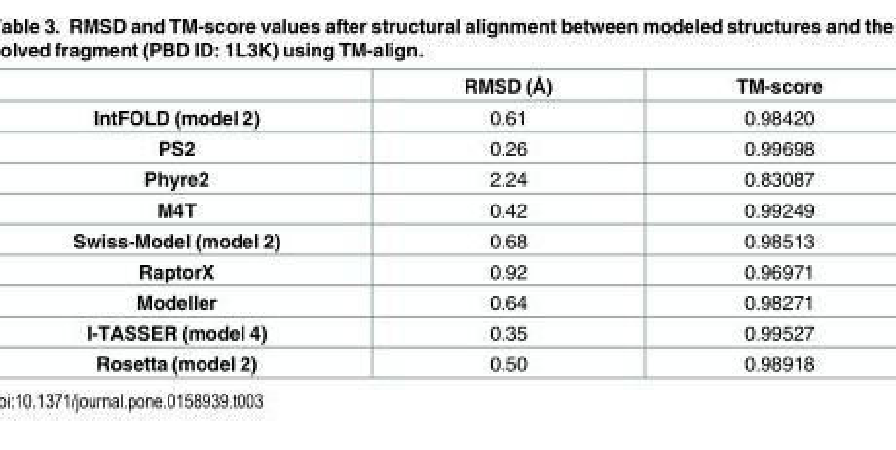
<table><thead><tr><td></td><td>RMSD (Å)</td><td>TM-score</td></tr></thead><tbody><tr><td>IntFOLD (model 2)</td><td>0.61</td><td>0.98420</td></tr><tr><td>PS2</td><td>0.26</td><td>0.99698</td></tr><tr><td>Phyre2</td><td>2.24</td><td>0.83087</td></tr><tr><td>M4T</td><td>0.42</td><td>0.99249</td></tr><tr><td>Swiss-Model (model 2)</td><td>0.68</td><td>0.98513</td></tr><tr><td>RaptorX</td><td>0.92</td><td>0.96971</td></tr><tr><td>Modeller</td><td>0.64</td><td>0.98271</td></tr><tr><td>I-TASSER (model 4)</td><td>0.35</td><td>0.99527</td></tr><tr><td>Rosetta (model 2)</td><td>0.50</td><td>0.98918</td></tr></tbody></table>